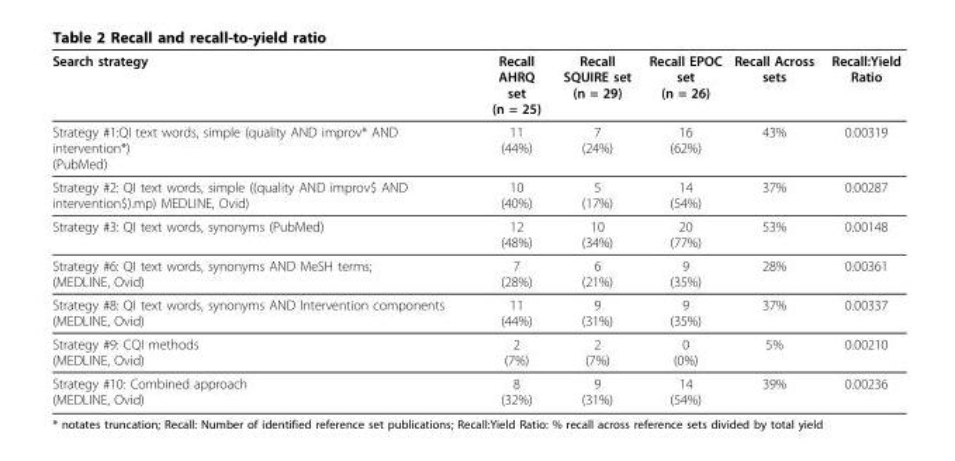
<table><thead><tr><td>Search strategy</td><td>Recall AHRQ set (n = 25)</td><td>Recall SQUIRE set (n = 29)</td><td>Recall EPOC set (n = 26)</td><td>Recall Across sets</td><td>Recall:Yield Ratio</td></tr></thead><tbody><tr><td>Strategy #1:QI text words, simple (quality AND improv* AND intervention*) (PubMed)</td><td>11 (44%)</td><td>7 (24%)</td><td>16 (62%)</td><td>43%</td><td>0.00319</td></tr><tr><td>Strategy #2: QI text words, simple ((quality AND improv$ AND intervention$).mp) MEDLINE, Ovid)</td><td>10 (40%)</td><td>5 (17%)</td><td>14 (54%)</td><td>37%</td><td>0.00287</td></tr><tr><td>Strategy #3: QI text words, synonyms (PubMed)</td><td>12 (48%)</td><td>10 (34%)</td><td>20 (77%)</td><td>53%</td><td>0.00148</td></tr><tr><td>Strategy #6: QI text words, synonyms AND MeSH terms; (MEDLINE, Ovid)</td><td>7 (28%)</td><td>6 (21%)</td><td>9 (35%)</td><td>28%</td><td>0.00361</td></tr><tr><td>Strategy #8: QI text words, synonyms AND Intervention components (MEDLINE, Ovid)</td><td>11 (44%)</td><td>9 (31%)</td><td>9 (35%)</td><td>37%</td><td>0.00337</td></tr><tr><td>Strategy #9: CQI methods (MEDLINE, Ovid)</td><td>2 (7%)</td><td>2 (7%)</td><td>0 (0%)</td><td>5%</td><td>0.00210</td></tr><tr><td>Strategy #10: Combined approach (MEDLINE, Ovid)</td><td>8 (32%)</td><td>9 (31%)</td><td>14 (54%)</td><td>39%</td><td>0.00236</td></tr></tbody></table>